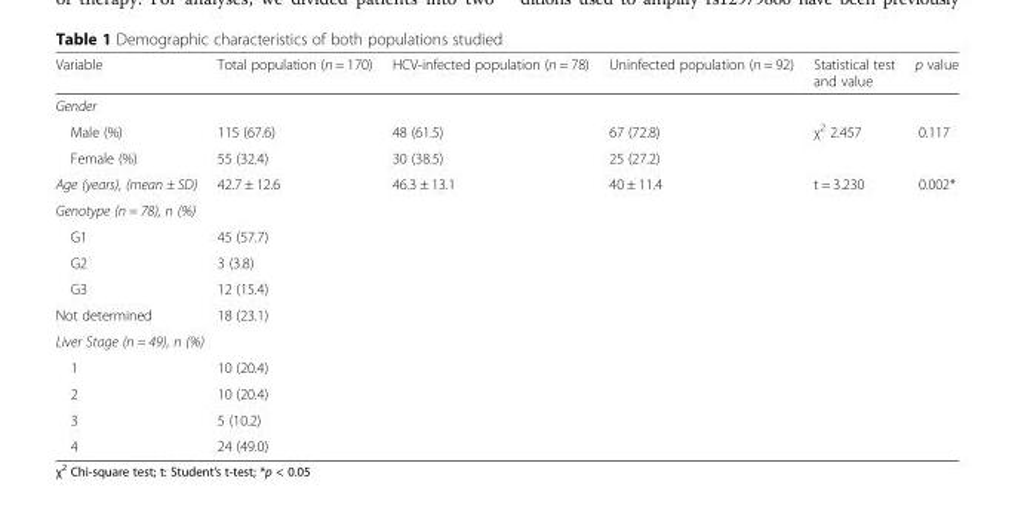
<table><thead><tr><td>Variable</td><td>Total population (n = 170)</td><td>HCV-infected population (n = 78)</td><td>Uninfected population (n = 92)</td><td>Statistical test and value</td><td>p value</td></tr></thead><tbody><tr><td colspan="6">Gender</td></tr><tr><td>Male (%)</td><td>115 (67.6)</td><td>48 (61.5)</td><td>67 (72.8)</td><td>χ<sup>2</sup> 2.457</td><td>0.117</td></tr><tr><td>Female (%)</td><td>55 (32.4)</td><td>30 (38.5)</td><td>25 (27.2)</td><td></td><td></td></tr><tr><td>Age (years), (mean ± SD)</td><td>42.7 ± 12.6</td><td>46.3 ± 13.1</td><td>40 ± 11.4</td><td>t = 3.230</td><td>0.002*</td></tr><tr><td colspan="6">Genotype (n = 78), n (%)</td></tr><tr><td>G1</td><td>45 (57.7)</td><td></td><td></td><td></td><td></td></tr><tr><td>G2</td><td>3 (3.8)</td><td></td><td></td><td></td><td></td></tr><tr><td>G3</td><td>12 (15.4)</td><td></td><td></td><td></td><td></td></tr><tr><td>Not determined</td><td>18 (23.1)</td><td></td><td></td><td></td><td></td></tr><tr><td colspan="6">Liver Stage (n = 49), n (%)</td></tr><tr><td>1</td><td>10 (20.4)</td><td></td><td></td><td></td><td></td></tr><tr><td>2</td><td>10 (20.4)</td><td></td><td></td><td></td><td></td></tr><tr><td>3</td><td>5 (10.2)</td><td></td><td></td><td></td><td></td></tr><tr><td>4</td><td>24 (49.0)</td><td></td><td></td><td></td><td></td></tr></tbody></table>